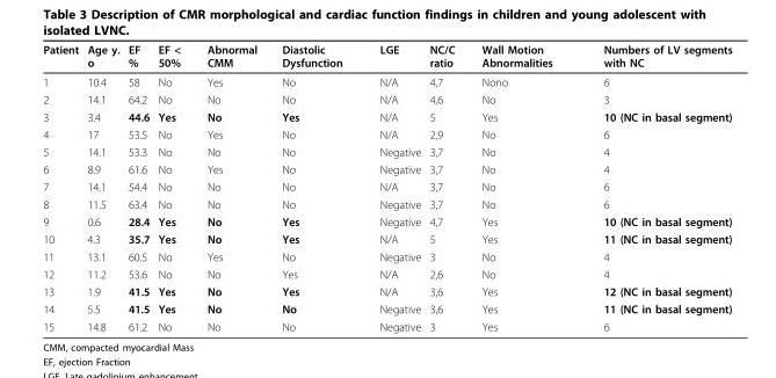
<table><thead><tr><td>Patient</td><td>Age y. o</td><td>EF %</td><td>EF &lt; 50%</td><td>Abnormal CMM</td><td>Diastolic Dysfunction</td><td>LGE</td><td>NC/C ratio</td><td>Wall Motion Abnormalities</td><td>Numbers of LV segments with NC</td></tr></thead><tbody><tr><td>1</td><td>10.4</td><td>58</td><td>No</td><td>Yes</td><td>No</td><td>N/A</td><td>4,7</td><td>Nono</td><td>6</td></tr><tr><td>2</td><td>14.1</td><td>64.2</td><td>No</td><td>No</td><td>No</td><td>N/A</td><td>4,6</td><td>No</td><td>3</td></tr><tr><td>3</td><td>3.4</td><td>44.6</td><td>Yes</td><td>No</td><td>Yes</td><td>N/A</td><td>5</td><td>Yes</td><td>10 (NC in basal segment)</td></tr><tr><td>4</td><td>17</td><td>53.5</td><td>No</td><td>Yes</td><td>No</td><td>N/A</td><td>2,9</td><td>No</td><td>6</td></tr><tr><td>5</td><td>14.1</td><td>53.3</td><td>No</td><td>No</td><td>No</td><td>Negative</td><td>3,7</td><td>No</td><td>4</td></tr><tr><td>6</td><td>8.9</td><td>61.6</td><td>No</td><td>Yes</td><td>No</td><td>Negative</td><td>3,7</td><td>No</td><td>4</td></tr><tr><td>7</td><td>14.1</td><td>54.4</td><td>No</td><td>No</td><td>No</td><td>N/A</td><td>3,7</td><td>No</td><td>6</td></tr><tr><td>8</td><td>11.5</td><td>63.4</td><td>No</td><td>No</td><td>No</td><td>Negative</td><td>3,7</td><td>No</td><td>6</td></tr><tr><td>9</td><td>0.6</td><td>28.4</td><td>Yes</td><td>No</td><td>Yes</td><td>Negative</td><td>4,7</td><td>Yes</td><td>10 (NC in basal segment)</td></tr><tr><td>10</td><td>4.3</td><td>35.7</td><td>Yes</td><td>No</td><td>Yes</td><td>N/A</td><td>5</td><td>Yes</td><td>11 (NC in basal segment)</td></tr><tr><td>11</td><td>13.1</td><td>60.5</td><td>No</td><td>Yes</td><td>No</td><td>Negative</td><td>3</td><td>No</td><td>4</td></tr><tr><td>12</td><td>11.2</td><td>53.6</td><td>No</td><td>No</td><td>Yes</td><td>N/A</td><td>2,6</td><td>No</td><td>4</td></tr><tr><td>13</td><td>1.9</td><td>41.5</td><td>Yes</td><td>No</td><td>Yes</td><td>N/A</td><td>3,6</td><td>Yes</td><td>12 (NC in basal segment)</td></tr><tr><td>14</td><td>5.5</td><td>41.5</td><td>Yes</td><td>No</td><td>No</td><td>Negative</td><td>3,6</td><td>Yes</td><td>11 (NC in basal segment)</td></tr><tr><td>15</td><td>14.8</td><td>61.2</td><td>No</td><td>No</td><td>No</td><td>Negative</td><td>3</td><td>Yes</td><td>6</td></tr></tbody></table>